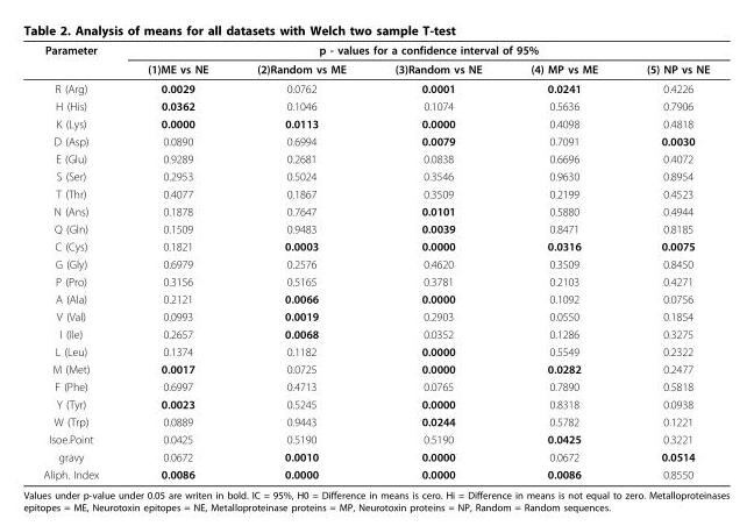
<table><thead><tr><td rowspan="2">Parameter</td><td colspan="5">p - values for a confidence interval of 95%</td></tr><tr><td>(1)ME vs NE</td><td>(2)Random vs ME</td><td>(3)Random vs NE</td><td>(4) MP vs ME</td><td>(5) NP vs NE</td></tr></thead><tbody><tr><td>R (Arg)</td><td>0.0029</td><td>0.0762</td><td>0.0001</td><td>0.0241</td><td>0.4226</td></tr><tr><td>H (His)</td><td>0.0362</td><td>0.1046</td><td>0.1074</td><td>0.5636</td><td>0.7906</td></tr><tr><td>K (Lys)</td><td>0.0000</td><td>0.0113</td><td>0.0000</td><td>0.4098</td><td>0.4818</td></tr><tr><td>D (Asp)</td><td>0.0890</td><td>0.6994</td><td>0.0079</td><td>0.7091</td><td>0.0030</td></tr><tr><td>E (Glu)</td><td>0.9289</td><td>0.2681</td><td>0.0838</td><td>0.6696</td><td>0.4072</td></tr><tr><td>S (Ser)</td><td>0.2953</td><td>0.5024</td><td>0.3546</td><td>0.9630</td><td>0.8954</td></tr><tr><td>T (Thr)</td><td>0.4077</td><td>0.1867</td><td>0.3509</td><td>0.2199</td><td>0.4523</td></tr><tr><td>N (Ans)</td><td>0.1878</td><td>0.7647</td><td>0.0101</td><td>0.5880</td><td>0.4944</td></tr><tr><td>Q (Gln)</td><td>0.1509</td><td>0.9483</td><td>0.0039</td><td>0.8471</td><td>0.8185</td></tr><tr><td>C (Cys)</td><td>0.1821</td><td>0.0003</td><td>0.0000</td><td>0.0316</td><td>0.0075</td></tr><tr><td>G (Gly)</td><td>0.6979</td><td>0.2576</td><td>0.4620</td><td>0.3509</td><td>0.8450</td></tr><tr><td>P (Pro)</td><td>0.3156</td><td>0.5165</td><td>0.3781</td><td>0.2103</td><td>0.4271</td></tr><tr><td>A (Ala)</td><td>0.2121</td><td>0.0066</td><td>0.0000</td><td>0.1092</td><td>0.0756</td></tr><tr><td>V (Val)</td><td>0.0993</td><td>0.0019</td><td>0.2903</td><td>0.0550</td><td>0.1854</td></tr><tr><td>I (Ile)</td><td>0.2657</td><td>0.0068</td><td>0.0352</td><td>0.1286</td><td>0.3275</td></tr><tr><td>L (Leu)</td><td>0.1374</td><td>0.1182</td><td>0.0000</td><td>0.5549</td><td>0.2322</td></tr><tr><td>M (Met)</td><td>0.0017</td><td>0.0725</td><td>0.0000</td><td>0.0282</td><td>0.2477</td></tr><tr><td>F (Phe)</td><td>0.6997</td><td>0.4713</td><td>0.0765</td><td>0.7890</td><td>0.5818</td></tr><tr><td>Y (Tyr)</td><td>0.0023</td><td>0.5245</td><td>0.0000</td><td>0.8318</td><td>0.0938</td></tr><tr><td>W (Trp)</td><td>0.0889</td><td>0.9443</td><td>0.0244</td><td>0.5782</td><td>0.1221</td></tr><tr><td>Isoe.Point</td><td>0.0425</td><td>0.5190</td><td>0.5190</td><td>0.0425</td><td>0.3221</td></tr><tr><td>gravy</td><td>0.0672</td><td>0.0010</td><td>0.0000</td><td>0.0672</td><td>0.0514</td></tr><tr><td>Aliph. Index</td><td>0.0086</td><td>0.0000</td><td>0.0000</td><td>0.0086</td><td>0.8550</td></tr></tbody></table>